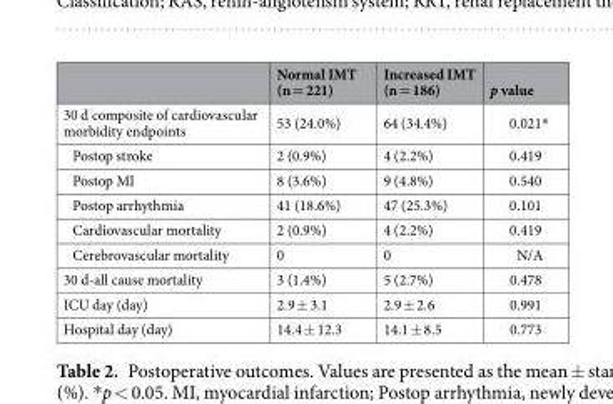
<table><thead><tr><td></td><td>Normal IMT (n = 221)</td><td>Increased IMT (n = 186)</td><td>p value</td></tr></thead><tbody><tr><td>30 d composite of cardiovascular morbidity endpoints</td><td>53 (24.0%)</td><td>64 (34.4%)</td><td>0.021*</td></tr><tr><td>Postop stroke</td><td>2 (0.9%)</td><td>4 (2.2%)</td><td>0.419</td></tr><tr><td>Postop MI</td><td>8 (3.6%)</td><td>9 (4.8%)</td><td>0.540</td></tr><tr><td>Postop arrhythmia</td><td>41 (18.6%)</td><td>47 (25.3%)</td><td>0.101</td></tr><tr><td>Cardiovascular mortality</td><td>2 (0.9%)</td><td>4 (2.2%)</td><td>0.419</td></tr><tr><td>Cerebrovascular mortality</td><td>0</td><td>0</td><td>N/A</td></tr><tr><td>30 d-all cause mortality</td><td>3 (1.4%)</td><td>5 (2.7%)</td><td>0.478</td></tr><tr><td>ICU day (day)</td><td>2.9 ± 3.1</td><td>2.9 ± 2.6</td><td>0.991</td></tr><tr><td>Hospital day (day)</td><td>14.4 ± 12.3</td><td>14.1 ± 8.5</td><td>0.773</td></tr></tbody></table>